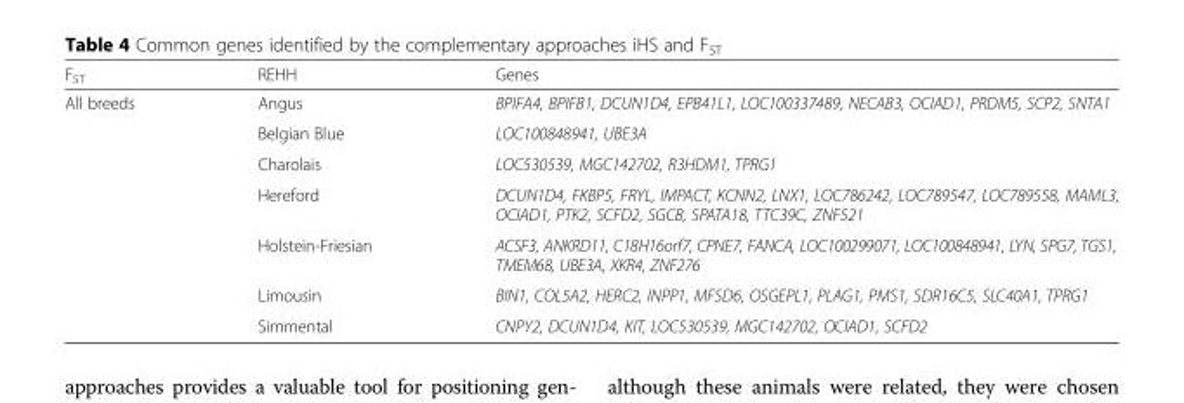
<table><thead><tr><td>F<sub>ST</sub></td><td>REHH</td><td>Genes</td></tr></thead><tbody><tr><td rowspan="7">All breeds</td><td>Angus</td><td>BPIFA4, BPIFB1, DCUN1D4, EPB41L1, LOC100337489, NECAB3, OCIAD1, PRDM5, SCP2, SNTA1</td></tr><tr><td>Belgian Blue</td><td>LOC100848941, UBE3A</td></tr><tr><td>Charolais</td><td>LOC530539, MGC142702, R3HDM1, TPRG1</td></tr><tr><td>Hereford</td><td>DCUN1D4, FKBP5, FRYL, IMPACT, KCNN2, LNX1, LOC786242, LOC789547, LOC789558, MAML3, OCIAD1, PTK2, SCFD2, SGCB, SPATA18, TTC39C, ZNF521</td></tr><tr><td>Holstein-Friesian</td><td>ACSF3, ANKRD11, C18H16orf7, CPNE7, FANCA, LOC100299071, LOC100848941, LYN, SPG7, TGS1, TMEM68, UBE3A, XKR4, ZNF276</td></tr><tr><td>Limousin</td><td>BIN1, COL5A2, HERC2, INPP1, MFSD6, OSGEPL1, PLAG1, PMS1, SDR16C5, SLC40A1, TPRG1</td></tr><tr><td>Simmental</td><td>CNPY2, DCUN1D4, KIT, LOC530539, MGC142702, OCIAD1, SCFD2</td></tr></tbody></table>